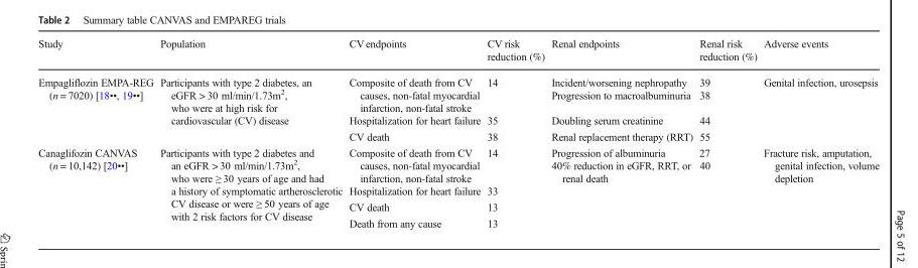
<table><thead><tr><td>Study</td><td>Population</td><td>CV endpoints</td><td>CV risk reduction (%)</td><td>Renal endpoints</td><td>Renal risk reduction (%)</td><td>Adverse events</td></tr></thead><tbody><tr><td rowspan="4">Empagliflozin EMPA-REG (n = 7020) [18••, 19••]</td><td rowspan="4">Participants with type 2 diabetes, an eGFR &gt; 30 ml/min/1.73m<sup>2</sup>, who were at high risk for cardiovascular (CV) disease</td><td rowspan="2">Composite of death from CV causes, non-fatal myocardial infarction, non-fatal stroke</td><td rowspan="2">14</td><td>Incident/worsening nephropathy</td><td>39</td><td rowspan="4">Genital infection, urosepsis</td></tr><tr><td>Progression to macroalbuminuria</td><td>38</td></tr><tr><td>Hospitalization for heart failure</td><td>35</td><td>Doubling serum creatinine</td><td>44</td></tr><tr><td>CV death</td><td>38</td><td>Renal replacement therapy (RRT)</td><td>55</td></tr><tr><td rowspan="5">Canaglifozin CANVAS (n = 10,142) [20••]</td><td rowspan="5">Participants with type 2 diabetes and an eGFR &gt; 30 ml/min/1.73m<sup>2</sup>, who were ≥ 30 years of age and had a history of symptomatic artherosclerotic CV disease or were ≥ 50 years of age with 2 risk factors for CV disease</td><td rowspan="2">Composite of death from CV causes, non-fatal myocardial infarction, non-fatal stroke</td><td rowspan="2">14</td><td>Progression of albuminuria</td><td>27</td><td rowspan="5">Fracture risk, amputation, genital infection, volume depletion</td></tr><tr><td rowspan="4">40% reduction in eGFR, RRT, or renal death</td><td rowspan="4">40</td></tr><tr><td>Hospitalization for heart failure</td><td>33</td></tr><tr><td>CV death</td><td>13</td></tr><tr><td>Death from any cause</td><td>13</td></tr></tbody></table>